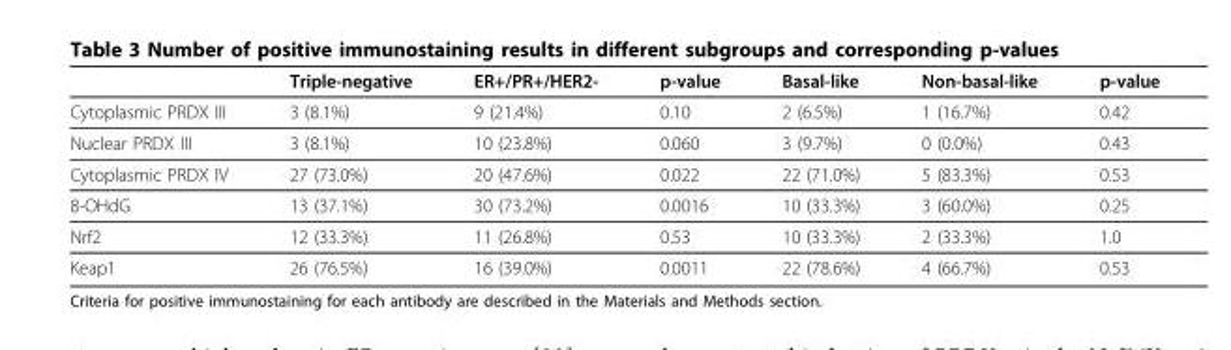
<table><thead><tr><td></td><td>Triple-negative</td><td>ER+/PR+/HER2-</td><td>p-value</td><td>Basal-like</td><td>Non-basal-like</td><td>p-value</td></tr></thead><tbody><tr><td>Cytoplasmic PRDX III</td><td>3 (8.1%)</td><td>9 (21.4%)</td><td>0.10</td><td>2 (6.5%)</td><td>1 (16.7%)</td><td>0.42</td></tr><tr><td>Nuclear PRDX III</td><td>3 (8.1%)</td><td>10 (23.8%)</td><td>0.060</td><td>3 (9.7%)</td><td>0 (0.0%)</td><td>0.43</td></tr><tr><td>Cytoplasmic PRDX IV</td><td>27 (73.0%)</td><td>20 (47.6%)</td><td>0.022</td><td>22 (71.0%)</td><td>5 (83.3%)</td><td>0.53</td></tr><tr><td>8-OHdG</td><td>13 (37.1%)</td><td>30 (73.2%)</td><td>0.0016</td><td>10 (33.3%)</td><td>3 (60.0%)</td><td>0.25</td></tr><tr><td>Nrf2</td><td>12 (33.3%)</td><td>11 (26.8%)</td><td>0.53</td><td>10 (33.3%)</td><td>2 (33.3%)</td><td>1.0</td></tr><tr><td>Keap1</td><td>26 (76.5%)</td><td>16 (39.0%)</td><td>0.0011</td><td>22 (78.6%)</td><td>4 (66.7%)</td><td>0.53</td></tr></tbody></table>